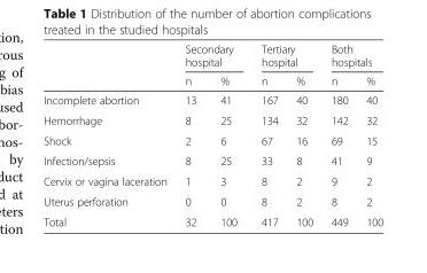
<table><thead><tr><td rowspan="2"></td><td colspan="2">Secondary hospital</td><td colspan="2">Tertiary hospital</td><td colspan="2">Both hospitals</td></tr><tr><td>n</td><td>%</td><td>n</td><td>%</td><td>n</td><td>%</td></tr></thead><tbody><tr><td>Incomplete abortion</td><td>13</td><td>41</td><td>167</td><td>40</td><td>180</td><td>40</td></tr><tr><td>Hemorrhage</td><td>8</td><td>25</td><td>134</td><td>32</td><td>142</td><td>32</td></tr><tr><td>Shock</td><td>2</td><td>6</td><td>67</td><td>16</td><td>69</td><td>15</td></tr><tr><td>Infection/sepsis</td><td>8</td><td>25</td><td>33</td><td>8</td><td>41</td><td>9</td></tr><tr><td>Cervix or vagina laceration</td><td>1</td><td>3</td><td>8</td><td>2</td><td>9</td><td>2</td></tr><tr><td>Uterus perforation</td><td>0</td><td>0</td><td>8</td><td>2</td><td>8</td><td>2</td></tr><tr><td>Total</td><td>32</td><td>100</td><td>417</td><td>100</td><td>449</td><td>100</td></tr></tbody></table>